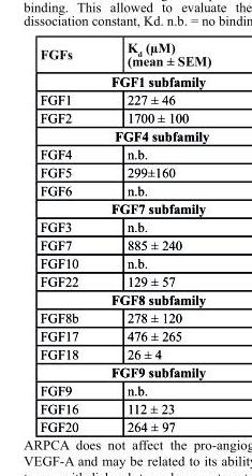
<table><thead><tr><td>FGFs</td><td>K<sub>d</sub> (µM) (mean ± sEM)</td></tr></thead><tbody><tr><td colspan="2">FGF1 subfamily</td></tr><tr><td>FGF1</td><td>227 ± 46</td></tr><tr><td>FGF2</td><td>1700 ± 100</td></tr><tr><td colspan="2">FGF4 subfamily</td></tr><tr><td>FGF4</td><td>n.b.</td></tr><tr><td>FGF5</td><td>299±160</td></tr><tr><td>FGF6</td><td>n.b.</td></tr><tr><td colspan="2">FGF7 subfamily</td></tr><tr><td>FGF3</td><td>n.b.</td></tr><tr><td>FGF7</td><td>885 ± 240</td></tr><tr><td>FGF10</td><td>n.b.</td></tr><tr><td>FGF22</td><td>129 ± 57</td></tr><tr><td colspan="2">FGF8 subfamily</td></tr><tr><td>FGF8b</td><td>278 ± 120</td></tr><tr><td>FGF17</td><td>476 ± 265</td></tr><tr><td>FGF18</td><td>26 ± 4</td></tr><tr><td colspan="2">FGF9 subfamily</td></tr><tr><td>FGF9</td><td>n.b.</td></tr><tr><td>FGF16</td><td>112 ± 23</td></tr><tr><td>FGF20</td><td>264 ± 97</td></tr></tbody></table>